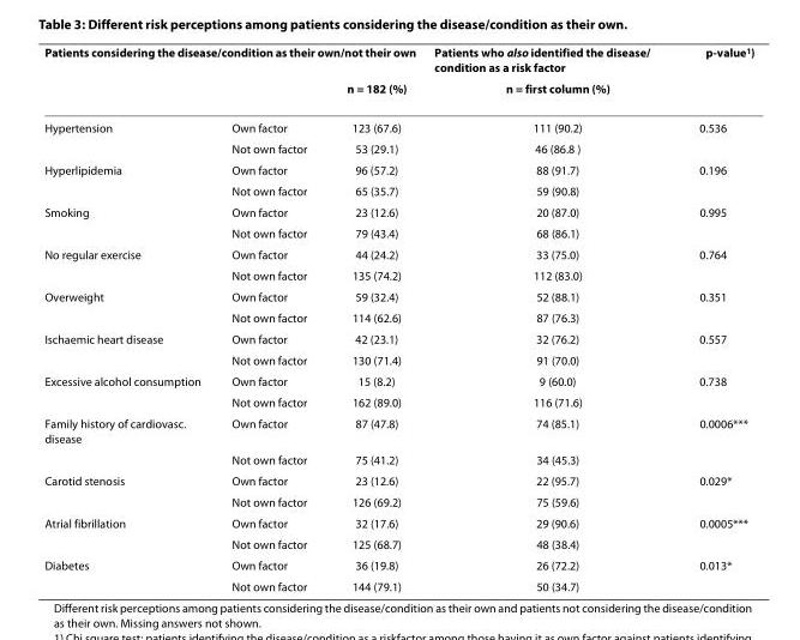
<table><thead><tr><td colspan="3">Patients considering the disease/condition as their own/not their own</td><td rowspan="2">Patients who also identified the disease/ condition as a risk factor n = first column (%)</td><td rowspan="2">p-value<sup>1)</sup></td></tr><tr><td></td><td></td><td>n = 182 (%)</td></tr></thead><tbody><tr><td rowspan="2">Hypertension</td><td>Own factor</td><td>123 (67.6)</td><td>111 (90.2)</td><td>0.536</td></tr><tr><td>Not own factor</td><td>53 (29.1)</td><td>46 (86.8 )</td><td></td></tr><tr><td rowspan="2">Hyperlipidemia</td><td>Own factor</td><td>96 (57.2)</td><td>88 (91.7)</td><td>0.196</td></tr><tr><td>Not own factor</td><td>65 (35.7)</td><td>59 (90.8)</td><td></td></tr><tr><td rowspan="2">Smoking</td><td>Own factor</td><td>23 (12.6)</td><td>20 (87.0)</td><td>0.995</td></tr><tr><td>Not own factor</td><td>79 (43.4)</td><td>68 (86.1)</td><td></td></tr><tr><td rowspan="2">No regular exercise</td><td>Own factor</td><td>44 (24.2)</td><td>33 (75.0)</td><td>0.764</td></tr><tr><td>Not own factor</td><td>135 (74.2)</td><td>112 (83.0)</td><td></td></tr><tr><td rowspan="2">Overweight</td><td>Own factor</td><td>59 (32.4)</td><td>52 (88.1)</td><td>0.351</td></tr><tr><td>Not own factor</td><td>114 (62.6)</td><td>87 (76.3)</td><td></td></tr><tr><td rowspan="2">Ischaemic heart disease</td><td>Own factor</td><td>42 (23.1)</td><td>32 (76.2)</td><td>0.557</td></tr><tr><td>Not own factor</td><td>130 (71.4)</td><td>91 (70.0)</td><td></td></tr><tr><td rowspan="2">Excessive alcohol consumption</td><td>Own factor</td><td>15 (8.2)</td><td>9 (60.0)</td><td>0.738</td></tr><tr><td>Not own factor</td><td>162 (89.0)</td><td>116 (71.6)</td><td></td></tr><tr><td rowspan="2">Family history of cardiovasc. disease</td><td>Own factor</td><td>87 (47.8)</td><td>74 (85.1)</td><td>0.0006***</td></tr><tr><td>Not own factor</td><td>75 (41.2)</td><td>34 (45.3)</td><td></td></tr><tr><td rowspan="2">Carotid stenosis</td><td>Own factor</td><td>23 (12.6)</td><td>22 (95.7)</td><td>0.029*</td></tr><tr><td>Not own factor</td><td>126 (69.2)</td><td>75 (59.6)</td><td></td></tr><tr><td rowspan="2">Atrial fibrillation</td><td>Own factor</td><td>32 (17.6)</td><td>29 (90.6)</td><td>0.0005***</td></tr><tr><td>Not own factor</td><td>125 (68.7)</td><td>48 (38.4)</td><td></td></tr><tr><td rowspan="2">Diabetes</td><td>Own factor</td><td>36 (19.8)</td><td>26 (72.2)</td><td>0.013*</td></tr><tr><td>Not own factor</td><td>144 (79.1)</td><td>50 (34.7)</td><td></td></tr></tbody></table>